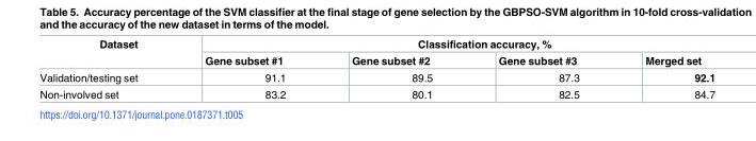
<table><thead><tr><td rowspan="2">Dataset</td><td colspan="4">Classification accuracy, %</td></tr><tr><td>Gene subset #1</td><td>Gene subset #2</td><td>Gene subset #3</td><td>Merged set</td></tr></thead><tbody><tr><td>Validation/testing set</td><td>91.1</td><td>89.5</td><td>87.3</td><td>92.1</td></tr><tr><td>Non-involved set</td><td>83.2</td><td>80.1</td><td>82.5</td><td>84.7</td></tr></tbody></table>